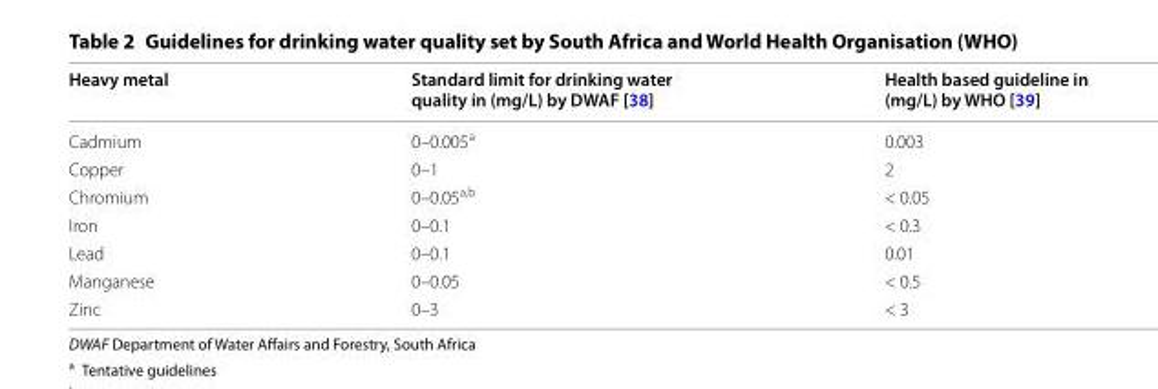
<table><thead><tr><td>Heavy metal</td><td>Standard limit for drinking water quality in (mg/L) by DWAF [38]</td><td>Health based guideline in (mg/L) by WHO [39]</td></tr></thead><tbody><tr><td>Cadmium</td><td>0–0.005<sup>a</sup></td><td>0.003</td></tr><tr><td>Copper</td><td>0–1</td><td>2</td></tr><tr><td>Chromium</td><td>0–0.05<sup>a,b</sup></td><td>&lt; 0.05</td></tr><tr><td>Iron</td><td>0–0.1</td><td>&lt; 0.3</td></tr><tr><td>Lead</td><td>0–0.1</td><td>0.01</td></tr><tr><td>Manganese</td><td>0–0.05</td><td>&lt; 0.5</td></tr><tr><td>Zinc</td><td>0–3</td><td>&lt; 3</td></tr></tbody></table>